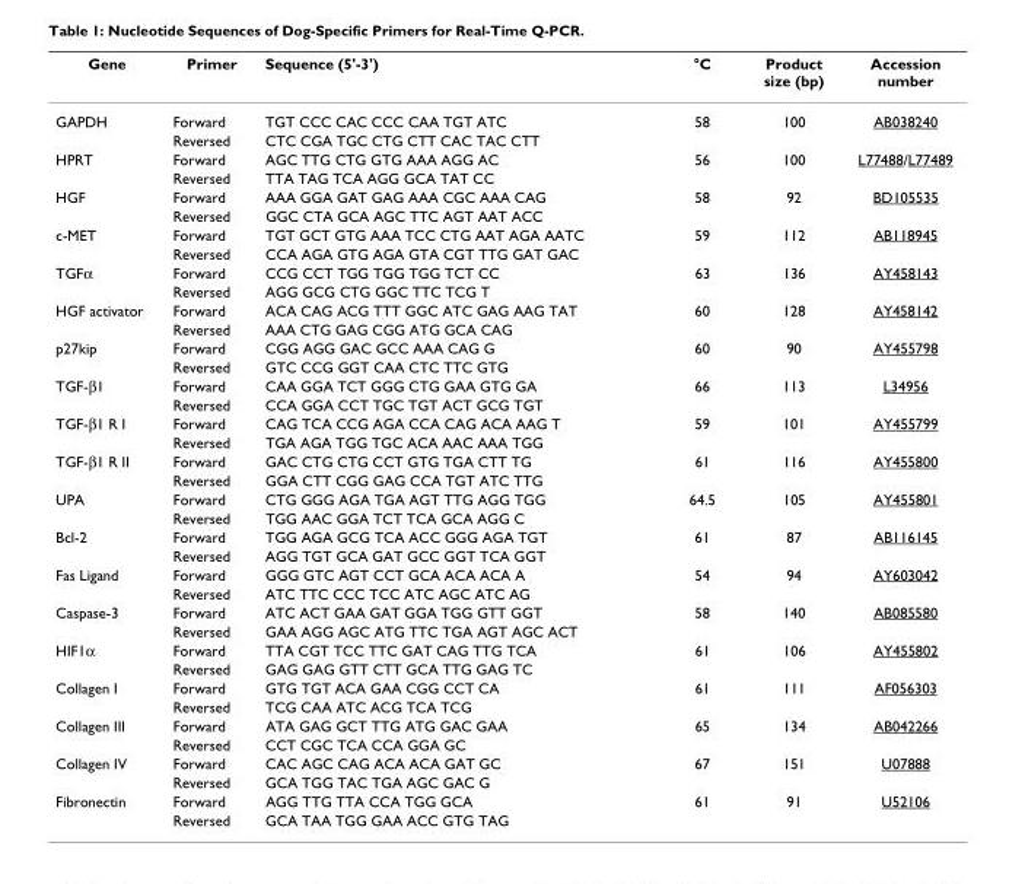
<table><thead><tr><td>Gene</td><td>Primer</td><td>Sequence (5&#x27;-3&#x27;)</td><td>°C</td><td>Product size (bp)</td><td>Accession number</td></tr></thead><tbody><tr><td rowspan="2">GAPDH</td><td>Forward</td><td>TGT CCC CAC CCC CAA TGT ATC</td><td>58</td><td>100</td><td>AB038240</td></tr><tr><td>Reversed</td><td>CTC CGA TGC CTG CTT CAC TAC CTT</td><td></td><td></td><td></td></tr><tr><td rowspan="2">HPRT</td><td>Forward</td><td>AGC TTG CTG GTG AAA AGG AC</td><td>56</td><td>100</td><td>L77488/L77489</td></tr><tr><td>Reversed</td><td>TTA TAG TCA AGG GCA TAT CC</td><td></td><td></td><td></td></tr><tr><td rowspan="2">HGF</td><td>Forward</td><td>AAA GGA GAT GAG AAA CGC AAA CAG</td><td>58</td><td>92</td><td>BD105535</td></tr><tr><td>Reversed</td><td>GGC CTA GCA AGC TTC AGT AAT ACC</td><td></td><td></td><td></td></tr><tr><td rowspan="2">c-MET</td><td>Forward</td><td>TGT GCT GTG AAA TCC CTG AAT AGA AATC</td><td>59</td><td>112</td><td>AB118945</td></tr><tr><td>Reversed</td><td>CCA AGA GTG AGA GTA CGT TTG GAT GAC</td><td></td><td></td><td></td></tr><tr><td rowspan="2">TGFα</td><td>Forward</td><td>CCG CCT TGG TGG TGG TCT CC</td><td>63</td><td>136</td><td>AY458143</td></tr><tr><td>Reversed</td><td>AGG GCG CTG GGC TTC TCG T</td><td></td><td></td><td></td></tr><tr><td rowspan="2">HGF activator</td><td>Forward</td><td>ACA CAG ACG TTT GGC ATC GAG AAG TAT</td><td>60</td><td>128</td><td>AY458142</td></tr><tr><td>Reversed</td><td>AAA CTG GAG CGG ATG GCA CAG</td><td></td><td></td><td></td></tr><tr><td rowspan="2">p27kip</td><td>Forward</td><td>CGG AGG GAC GCC AAA CAG G</td><td>60</td><td>90</td><td>AY455798</td></tr><tr><td>Reversed</td><td>GTC CCG GGT CAA CTC TTC GTG</td><td></td><td></td><td></td></tr><tr><td rowspan="2">TGF-β1</td><td>Forward</td><td>CAA GGA TCT GGG CTG GAA GTG GA</td><td>66</td><td>113</td><td>L34956</td></tr><tr><td>Reversed</td><td>CCA GGA CCT TGC TGT ACT GCG TGT</td><td></td><td></td><td></td></tr><tr><td rowspan="2">TGF-β1 R I</td><td>Forward</td><td>CAG TCA CCG AGA CCA CAG ACA AAG T</td><td>59</td><td>101</td><td>AY455799</td></tr><tr><td>Reversed</td><td>TGA AGA TGG TGC ACA AAC AAA TGG</td><td></td><td></td><td></td></tr><tr><td rowspan="2">TGF-β1 R II</td><td>Forward</td><td>GAC CTG CTG CCT GTG TGA CTT TG</td><td>61</td><td>116</td><td>AY455800</td></tr><tr><td>Reversed</td><td>GGA CTT CGG GAG CCA TGT ATC TTG</td><td></td><td></td><td></td></tr><tr><td rowspan="2">UPA</td><td>Forward</td><td>CTG GGG AGA TGA AGT TTG AGG TGG</td><td>64.5</td><td>105</td><td>AY455801</td></tr><tr><td>Reversed</td><td>TGG AAC GGA TCT TCA GCA AGG C</td><td></td><td></td><td></td></tr><tr><td rowspan="2">Bcl-2</td><td>Forward</td><td>TGG AGA GCG TCA ACC GGG AGA TGT</td><td>61</td><td>87</td><td>AB116145</td></tr><tr><td>Reversed</td><td>AGG TGT GCA GAT GCC GGT TCA GGT</td><td></td><td></td><td></td></tr><tr><td rowspan="2">Fas Ligand</td><td>Forward</td><td>GGG GTC AGT CCT GCA ACA ACA A</td><td>54</td><td>94</td><td>AY603042</td></tr><tr><td>Reversed</td><td>ATC TTC CCC TCC ATC AGC ATC AG</td><td></td><td></td><td></td></tr><tr><td rowspan="2">Caspase-3</td><td>Forward</td><td>ATC ACT GAA GAT GGA TGG GTT GGT</td><td>58</td><td>140</td><td>AB085580</td></tr><tr><td>Reversed</td><td>GAA AGG AGC ATG TTC TGA AGT AGC ACT</td><td></td><td></td><td></td></tr><tr><td rowspan="2">HIF1α</td><td>Forward</td><td>TTA CGT TCC TTC GAT CAG TTG TCA</td><td>61</td><td>106</td><td>AY455802</td></tr><tr><td>Reversed</td><td>GAG GAG GTT CTT GCA TTG GAG TC</td><td></td><td></td><td></td></tr><tr><td rowspan="2">Collagen I</td><td>Forward</td><td>GTG TGT ACA GAA CGG CCT CA</td><td>61</td><td>111</td><td>AF056303</td></tr><tr><td>Reversed</td><td>TCG CAA ATC ACG TCA TCG</td><td></td><td></td><td></td></tr><tr><td rowspan="2">Collagen III</td><td>Forward</td><td>ATA GAG GCT TTG ATG GAC GAA</td><td>65</td><td>134</td><td>AB042266</td></tr><tr><td>Reversed</td><td>CCT CGC TCA CCA GGA GC</td><td></td><td></td><td></td></tr><tr><td rowspan="2">Collagen IV</td><td>Forward</td><td>CAC AGC CAG ACA ACA GAT GC</td><td>67</td><td>151</td><td>U07888</td></tr><tr><td>Reversed</td><td>GCA TGG TAC TGA AGC GAC G</td><td></td><td></td><td></td></tr><tr><td rowspan="2">Fibronectin</td><td>Forward</td><td>AGG TTG TTA CCA TGG GCA</td><td>61</td><td>91</td><td>U52106</td></tr><tr><td>Reversed</td><td>GCA TAA TGG GAA ACC GTG TAG</td><td></td><td></td><td></td></tr></tbody></table>